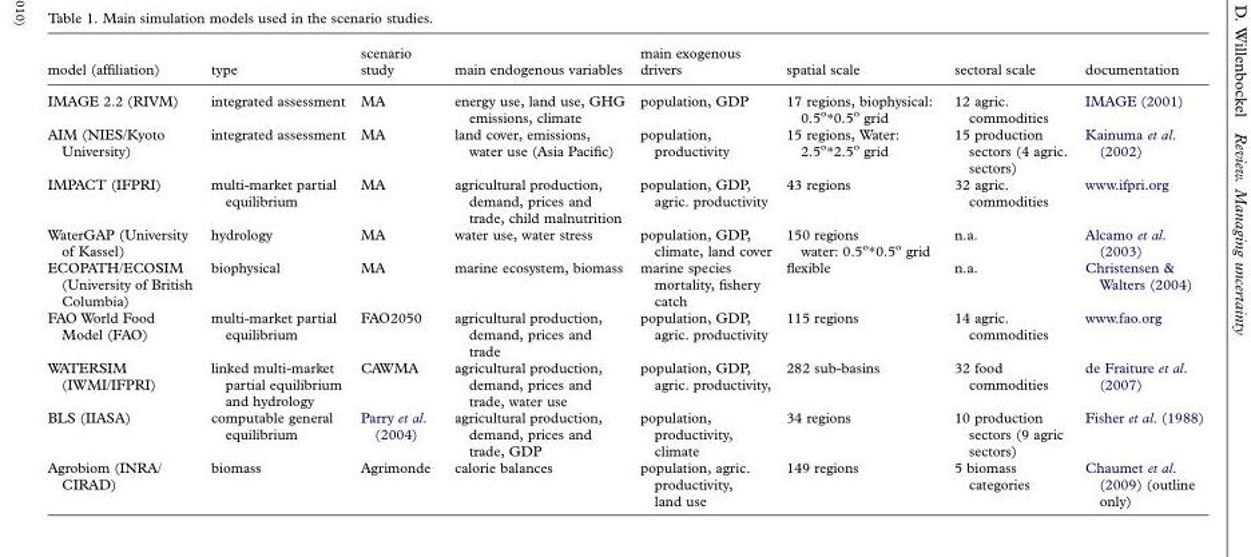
<table><thead><tr><td>model (affiliation)</td><td>type</td><td>scenario study</td><td>main endogenous variables</td><td>main exogenous drivers</td><td>spatial scale</td><td>sectoral scale</td><td>documentation</td></tr></thead><tbody><tr><td>IMAGE 2.2 (RIVM)</td><td>integrated assessment</td><td>MA</td><td>energy use, land use, GHG emissions, climate</td><td>population, GDP</td><td>17 regions, biophysical: 0.5<sup>o</sup>*0.5<sup>o</sup> grid</td><td>12 agric. commodities</td><td>IMAGE (2001)</td></tr><tr><td>AIM (NIES/Kyoto University)</td><td>integrated assessment</td><td>MA</td><td>land cover, emissions, water use (Asia Pacific)</td><td>population, productivity</td><td>15 regions, Water: 2.5<sup>o</sup>*2.5<sup>o</sup> grid</td><td>15 production sectors (4 agric. sectors)</td><td>Kainuma et al. (2002)</td></tr><tr><td>IMPACT (IFPRI)</td><td>multi-market partial equilibrium</td><td>MA</td><td>agricultural production, demand, prices and trade, child malnutrition</td><td>population, GDP, agric. productivity</td><td>43 regions</td><td>32 agric. commodities</td><td>www.ifpri.org</td></tr><tr><td>WaterGAP (University of Kassel)</td><td>hydrology</td><td>MA</td><td>water use, water stress</td><td>population, GDP, climate, land cover</td><td>150 regions water: 0.5<sup>o</sup>*0.5<sup>o</sup> grid</td><td>n.a.</td><td>Alcamo et al. (2003)</td></tr><tr><td>ECOPATH/ECOSIM (University of British Columbia)</td><td>biophysical</td><td>MA</td><td>marine ecosystem, biomass</td><td>marine species mortality, fishery catch</td><td>flexible</td><td>n.a.</td><td>Christensen &amp; Walters (2004)</td></tr><tr><td>FAO World Food Model (FAO)</td><td>multi-market partial equilibrium</td><td>FAO2050</td><td>agricultural production, demand, prices and trade</td><td>population, GDP, agric. productivity</td><td>115 regions</td><td>14 agric. commodities</td><td>www.fao.org</td></tr><tr><td>WATERSIM (IWMI/IFPRI)</td><td>linked multi-market partial equilibrium and hydrology</td><td>CAWMA</td><td>agricultural production, demand, prices and trade, water use</td><td>population, GDP, agric. productivity,</td><td>282 sub-basins</td><td>32 food commodities</td><td>de Fraiture et al. (2007)</td></tr><tr><td>BLS (IIASA)</td><td>computable general equilibrium</td><td>Parry et al. (2004)</td><td>agricultural production, demand, prices and trade, GDP</td><td>population, productivity, climate</td><td>34 regions</td><td>10 production sectors (9 agric sectors)</td><td>Fisher et al. (1988)</td></tr><tr><td>Agrobiom (INRA/ CIRAD)</td><td>biomass</td><td>Agrimonde</td><td>calorie balances</td><td>population, agric. productivity, land use</td><td>149 regions</td><td>5 biomass categories</td><td>Chaumet et al. (2009) (outline only)</td></tr></tbody></table>